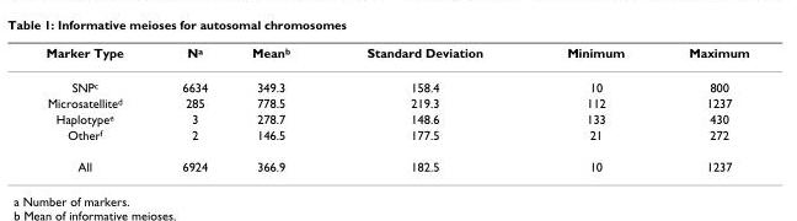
<table><thead><tr><td>Marker Type</td><td>N<sup>a</sup></td><td>Mean<sup>b</sup></td><td>Standard Deviation</td><td>Minimum</td><td>Maximum</td></tr></thead><tbody><tr><td>SNP<sup>c</sup></td><td>6634</td><td>349.3</td><td>158.4</td><td>10</td><td>800</td></tr><tr><td>Microsatellite<sup>d</sup></td><td>285</td><td>778.5</td><td>219.3</td><td>112</td><td>1237</td></tr><tr><td>Haplotype<sup>e</sup></td><td>3</td><td>278.7</td><td>148.6</td><td>133</td><td>430</td></tr><tr><td>Other<sup>f</sup></td><td>2</td><td>146.5</td><td>177.5</td><td>21</td><td>272</td></tr><tr><td>All</td><td>6924</td><td>366.9</td><td>182.5</td><td>10</td><td>1237</td></tr></tbody></table>